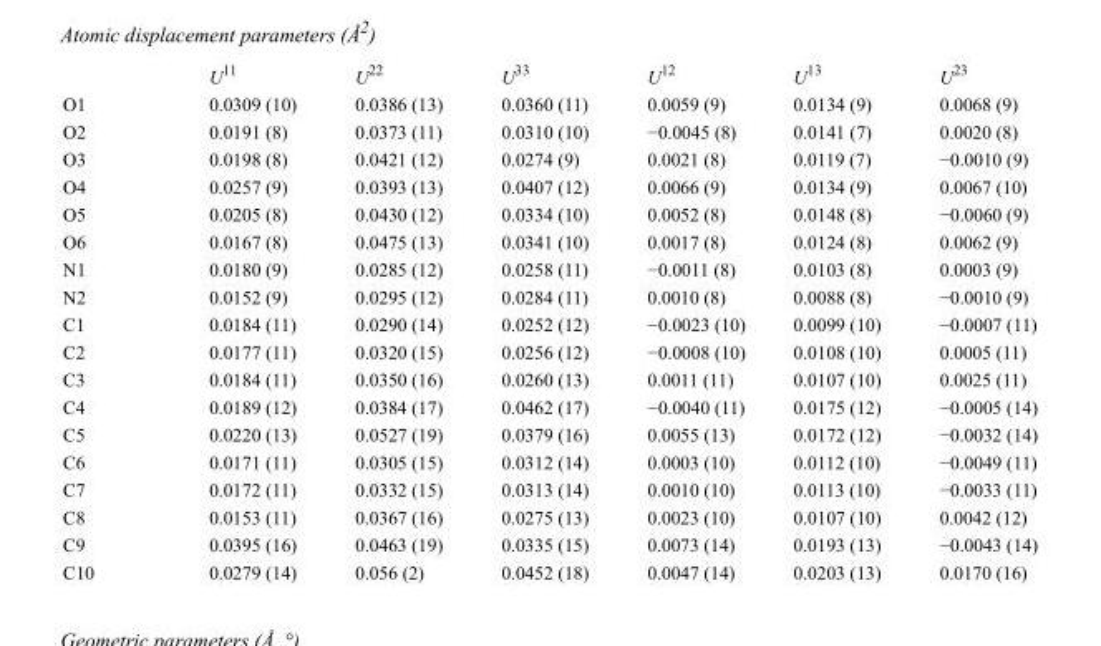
<table><thead><tr><td></td><td>U<sup>11</sup></td><td>U<sup>22</sup></td><td>U<sup>33</sup></td><td>U<sup>12</sup></td><td>U<sup>13</sup></td><td>U<sup>23</sup></td></tr></thead><tbody><tr><td>O1</td><td>0.0309 (10)</td><td>0.0386 (13)</td><td>0.0360 (11)</td><td>0.0059 (9)</td><td>0.0134 (9)</td><td>0.0068 (9)</td></tr><tr><td>O2</td><td>0.0191 (8)</td><td>0.0373 (11)</td><td>0.0310 (10)</td><td>−0.0045 (8)</td><td>0.0141 (7)</td><td>0.0020 (8)</td></tr><tr><td>O3</td><td>0.0198 (8)</td><td>0.0421 (12)</td><td>0.0274 (9)</td><td>0.0021 (8)</td><td>0.0119 (7)</td><td>−0.0010 (9)</td></tr><tr><td>O4</td><td>0.0257 (9)</td><td>0.0393 (13)</td><td>0.0407 (12)</td><td>0.0066 (9)</td><td>0.0134 (9)</td><td>0.0067 (10)</td></tr><tr><td>O5</td><td>0.0205 (8)</td><td>0.0430 (12)</td><td>0.0334 (10)</td><td>0.0052 (8)</td><td>0.0148 (8)</td><td>−0.0060 (9)</td></tr><tr><td>O6</td><td>0.0167 (8)</td><td>0.0475 (13)</td><td>0.0341 (10)</td><td>0.0017 (8)</td><td>0.0124 (8)</td><td>0.0062 (9)</td></tr><tr><td>N1</td><td>0.0180 (9)</td><td>0.0285 (12)</td><td>0.0258 (11)</td><td>−0.0011 (8)</td><td>0.0103 (8)</td><td>0.0003 (9)</td></tr><tr><td>N2</td><td>0.0152 (9)</td><td>0.0295 (12)</td><td>0.0284 (11)</td><td>0.0010 (8)</td><td>0.0088 (8)</td><td>−0.0010 (9)</td></tr><tr><td>C1</td><td>0.0184 (11)</td><td>0.0290 (14)</td><td>0.0252 (12)</td><td>−0.0023 (10)</td><td>0.0099 (10)</td><td>−0.0007 (11)</td></tr><tr><td>C2</td><td>0.0177 (11)</td><td>0.0320 (15)</td><td>0.0256 (12)</td><td>−0.0008 (10)</td><td>0.0108 (10)</td><td>0.0005 (11)</td></tr><tr><td>C3</td><td>0.0184 (11)</td><td>0.0350 (16)</td><td>0.0260 (13)</td><td>0.0011 (11)</td><td>0.0107 (10)</td><td>0.0025 (11)</td></tr><tr><td>C4</td><td>0.0189 (12)</td><td>0.0384 (17)</td><td>0.0462 (17)</td><td>−0.0040 (11)</td><td>0.0175 (12)</td><td>−0.0005 (14)</td></tr><tr><td>C5</td><td>0.0220 (13)</td><td>0.0527 (19)</td><td>0.0379 (16)</td><td>0.0055 (13)</td><td>0.0172 (12)</td><td>−0.0032 (14)</td></tr><tr><td>C6</td><td>0.0171 (11)</td><td>0.0305 (15)</td><td>0.0312 (14)</td><td>0.0003 (10)</td><td>0.0112 (10)</td><td>−0.0049 (11)</td></tr><tr><td>C7</td><td>0.0172 (11)</td><td>0.0332 (15)</td><td>0.0313 (14)</td><td>0.0010 (10)</td><td>0.0113 (10)</td><td>−0.0033 (11)</td></tr><tr><td>C8</td><td>0.0153 (11)</td><td>0.0367 (16)</td><td>0.0275 (13)</td><td>0.0023 (10)</td><td>0.0107 (10)</td><td>0.0042 (12)</td></tr><tr><td>C9</td><td>0.0395 (16)</td><td>0.0463 (19)</td><td>0.0335 (15)</td><td>0.0073 (14)</td><td>0.0193 (13)</td><td>−0.0043 (14)</td></tr><tr><td>C10</td><td>0.0279 (14)</td><td>0.056 (2)</td><td>0.0452 (18)</td><td>0.0047 (14)</td><td>0.0203 (13)</td><td>0.0170 (16)</td></tr></tbody></table>